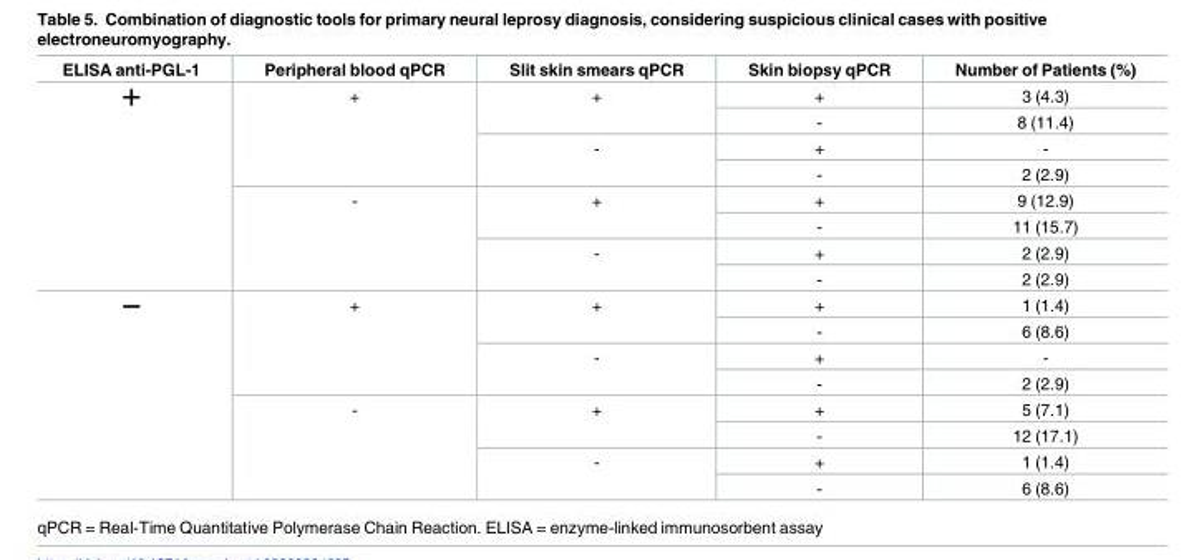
<table><thead><tr><td>ELISA anti-PGL-1</td><td>Peripheral blood qPCR</td><td>Slit skin smears qPCR</td><td>Skin biopsy qPCR</td><td>Number of Patients (%)</td></tr></thead><tbody><tr><td rowspan="8">╋</td><td rowspan="4">+</td><td rowspan="2">+</td><td>+</td><td>3 (4.3)</td></tr><tr><td>-</td><td>8 (11.4)</td></tr><tr><td rowspan="2">-</td><td>+</td><td>-</td></tr><tr><td>-</td><td>2 (2.9)</td></tr><tr><td rowspan="4">-</td><td rowspan="2">+</td><td>+</td><td>9 (12.9)</td></tr><tr><td>-</td><td>11 (15.7)</td></tr><tr><td rowspan="2">-</td><td>+</td><td>2 (2.9)</td></tr><tr><td>-</td><td>2 (2.9)</td></tr><tr><td rowspan="8">━</td><td rowspan="4">+</td><td rowspan="2">+</td><td>+</td><td>1 (1.4)</td></tr><tr><td>-</td><td>6 (8.6)</td></tr><tr><td rowspan="2">-</td><td>+</td><td>-</td></tr><tr><td>-</td><td>2 (2.9)</td></tr><tr><td rowspan="4">-</td><td rowspan="2">+</td><td>+</td><td>5 (7.1)</td></tr><tr><td>-</td><td>12 (17.1)</td></tr><tr><td rowspan="2">-</td><td>+</td><td>1 (1.4)</td></tr><tr><td>-</td><td>6 (8.6)</td></tr></tbody></table>